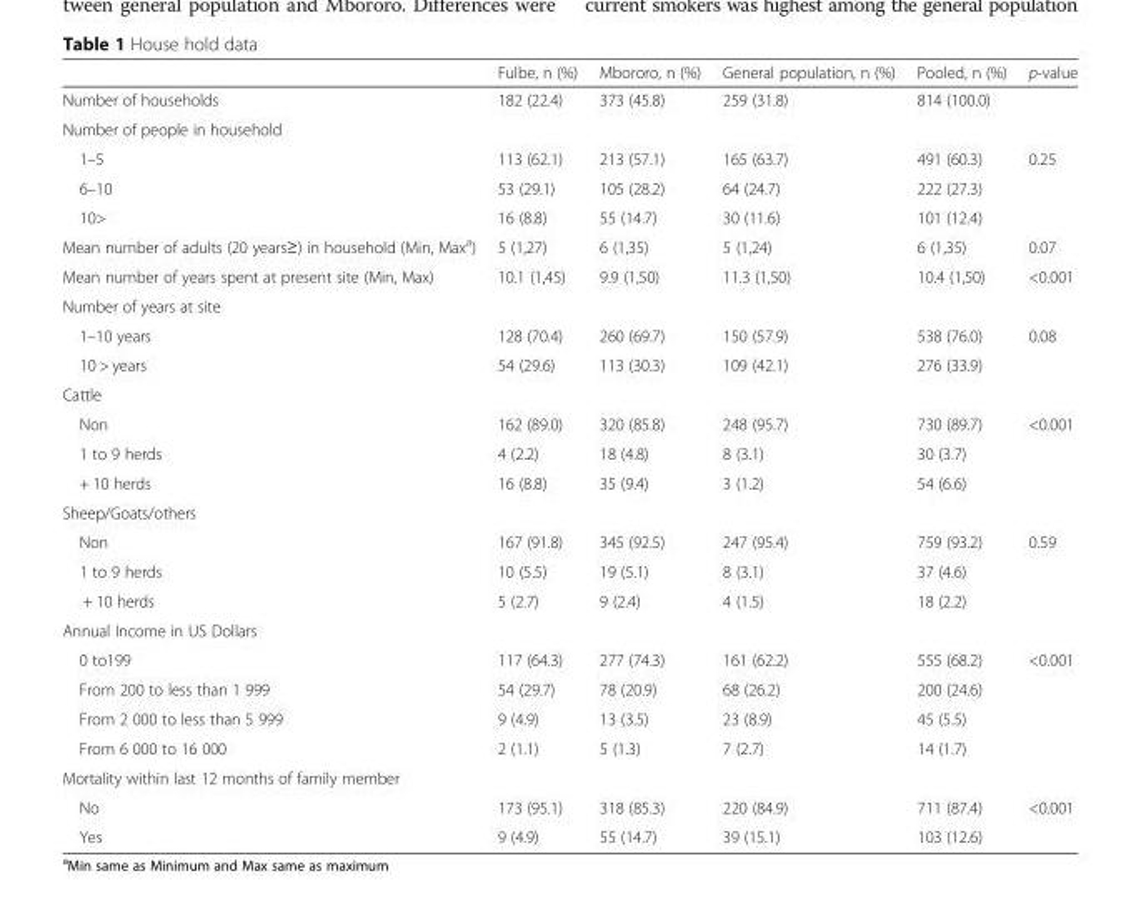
<table><thead><tr><td></td><td>Fulbe, n (%)</td><td>Mbororo, n (%)</td><td>General population, n (%)</td><td>Pooled, n (%)</td><td>p-value</td></tr></thead><tbody><tr><td>Number of households</td><td>182 (22.4)</td><td>373 (45.8)</td><td>259 (31.8)</td><td>814 (100.0)</td><td></td></tr><tr><td colspan="6">Number of people in household</td></tr><tr><td>1–5</td><td>113 (62.1)</td><td>213 (57.1)</td><td>165 (63.7)</td><td>491 (60.3)</td><td rowspan="3">0.25</td></tr><tr><td>6–10</td><td>53 (29.1)</td><td>105 (28.2)</td><td>64 (24.7)</td><td>222 (27.3)</td></tr><tr><td>10&gt;</td><td>16 (8.8)</td><td>55 (14.7)</td><td>30 (11.6)</td><td>101 (12.4)</td></tr><tr><td>Mean number of adults (20 years≥) in household (Min, Max<sup>a</sup>)</td><td>5 (1,27)</td><td>6 (1,35)</td><td>5 (1,24)</td><td>6 (1,35)</td><td>0.07</td></tr><tr><td>Mean number of years spent at present site (Min, Max)</td><td>10.1 (1,45)</td><td>9.9 (1,50)</td><td>11.3 (1,50)</td><td>10.4 (1,50)</td><td>&lt;0.001</td></tr><tr><td colspan="6">Number of years at site</td></tr><tr><td>1–10 years</td><td>128 (70.4)</td><td>260 (69.7)</td><td>150 (57.9)</td><td>538 (76.0)</td><td rowspan="2">0.08</td></tr><tr><td>10 &gt; years</td><td>54 (29.6)</td><td>113 (30.3)</td><td>109 (42.1)</td><td>276 (33.9)</td></tr><tr><td colspan="6">Cattle</td></tr><tr><td>Non</td><td>162 (89.0)</td><td>320 (85.8)</td><td>248 (95.7)</td><td>730 (89.7)</td><td rowspan="3">&lt;0.001</td></tr><tr><td>1 to 9 herds</td><td>4 (2.2)</td><td>18 (4.8)</td><td>8 (3.1)</td><td>30 (3.7)</td></tr><tr><td>+ 10 herds</td><td>16 (8.8)</td><td>35 (9.4)</td><td>3 (1.2)</td><td>54 (6.6)</td></tr><tr><td colspan="6">Sheep/Goats/others</td></tr><tr><td>Non</td><td>167 (91.8)</td><td>345 (92.5)</td><td>247 (95.4)</td><td>759 (93.2)</td><td rowspan="3">0.59</td></tr><tr><td>1 to 9 herds</td><td>10 (5.5)</td><td>19 (5.1)</td><td>8 (3.1)</td><td>37 (4.6)</td></tr><tr><td>+ 10 herds</td><td>5 (2.7)</td><td>9 (2.4)</td><td>4 (1.5)</td><td>18 (2.2)</td></tr><tr><td colspan="6">Annual Income in US Dollars</td></tr><tr><td>0 to199</td><td>117 (64.3)</td><td>277 (74.3)</td><td>161 (62.2)</td><td>555 (68.2)</td><td rowspan="4">&lt;0.001</td></tr><tr><td>From 200 to less than 1 999</td><td>54 (29.7)</td><td>78 (20.9)</td><td>68 (26.2)</td><td>200 (24.6)</td></tr><tr><td>From 2 000 to less than 5 999</td><td>9 (4.9)</td><td>13 (3.5)</td><td>23 (8.9)</td><td>45 (5.5)</td></tr><tr><td>From 6 000 to 16 000</td><td>2 (1.1)</td><td>5 (1.3)</td><td>7 (2.7)</td><td>14 (1.7)</td></tr><tr><td colspan="6">Mortality within last 12 months of family member</td></tr><tr><td>No</td><td>173 (95.1)</td><td>318 (85.3)</td><td>220 (84.9)</td><td>711 (87.4)</td><td rowspan="2">&lt;0.001</td></tr><tr><td>Yes</td><td>9 (4.9)</td><td>55 (14.7)</td><td>39 (15.1)</td><td>103 (12.6)</td></tr></tbody></table>